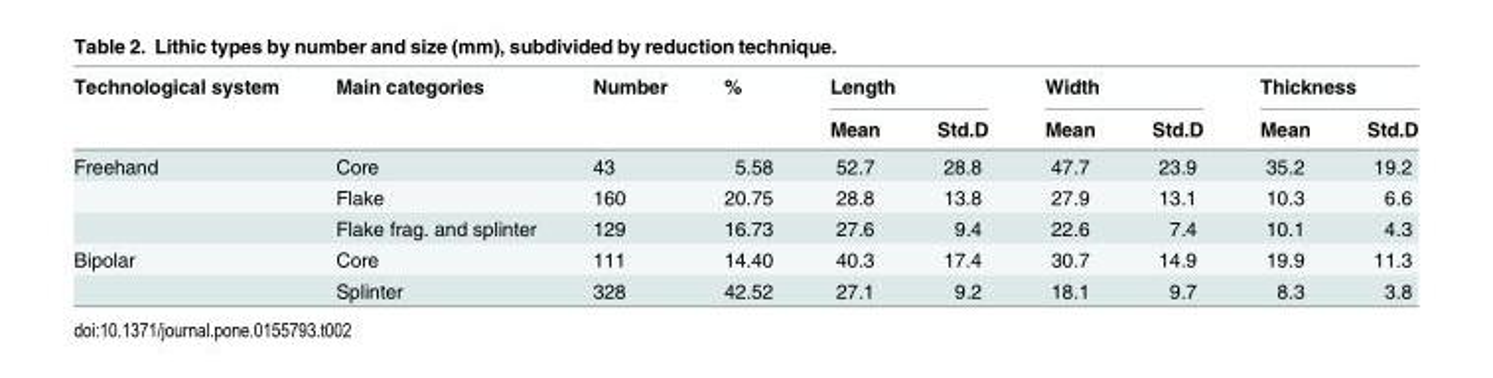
<table><thead><tr><td rowspan="2">Technological system</td><td rowspan="2">Main categories</td><td rowspan="2">Number</td><td rowspan="2">%</td><td colspan="2">Length</td><td colspan="2">Width</td><td colspan="2">Thickness</td></tr><tr><td>Mean</td><td>Std.D</td><td>Mean</td><td>Std.D</td><td>Mean</td><td>Std.D</td></tr></thead><tbody><tr><td rowspan="3">Freehand</td><td>Core</td><td>43</td><td>5.58</td><td>52.7</td><td>28.8</td><td>47.7</td><td>23.9</td><td>35.2</td><td>19.2</td></tr><tr><td>Flake</td><td>160</td><td>20.75</td><td>28.8</td><td>13.8</td><td>27.9</td><td>13.1</td><td>10.3</td><td>6.6</td></tr><tr><td>Flake frag. and splinter</td><td>129</td><td>16.73</td><td>27.6</td><td>9.4</td><td>22.6</td><td>7.4</td><td>10.1</td><td>4.3</td></tr><tr><td rowspan="2">Bipolar</td><td>Core</td><td>111</td><td>14.40</td><td>40.3</td><td>17.4</td><td>30.7</td><td>14.9</td><td>19.9</td><td>11.3</td></tr><tr><td>Splinter</td><td>328</td><td>42.52</td><td>27.1</td><td>9.2</td><td>18.1</td><td>9.7</td><td>8.3</td><td>3.8</td></tr></tbody></table>